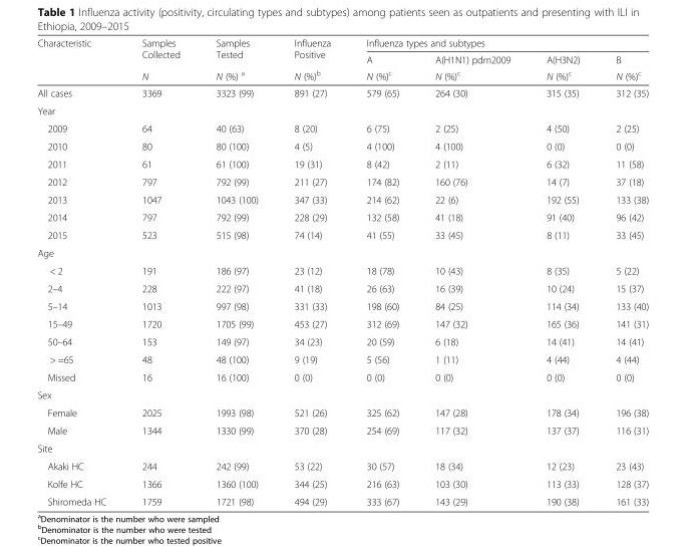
<table><thead><tr><td rowspan="3">Characteristic</td><td rowspan="3">Samples Collected N</td><td rowspan="3">Samples Tested N (%) <sup>a</sup></td><td rowspan="3">Influenza Positive N (%)<sup>b</sup></td><td colspan="4">Influenza types and subtypes</td></tr><tr><td rowspan="2">A N (%)<sup>c</sup></td><td rowspan="2">A(H1N1) pdm2009 N (%)<sup>c</sup></td><td rowspan="2">A(H3N2) N (%)<sup>c</sup></td><td rowspan="2">B N (%)<sup>c</sup></td></tr><tr></tr></thead><tbody><tr><td>All cases</td><td>3369</td><td>3323 (99)</td><td>891 (27)</td><td>579 (65)</td><td>264 (30)</td><td>315 (35)</td><td>312 (35)</td></tr><tr><td colspan="8">Year</td></tr><tr><td>2009</td><td>64</td><td>40 (63)</td><td>8 (20)</td><td>6 (75)</td><td>2 (25)</td><td>4 (50)</td><td>2 (25)</td></tr><tr><td>2010</td><td>80</td><td>80 (100)</td><td>4 (5)</td><td>4 (100)</td><td>4 (100)</td><td>0 (0)</td><td>0 (0)</td></tr><tr><td>2011</td><td>61</td><td>61 (100)</td><td>19 (31)</td><td>8 (42)</td><td>2 (11)</td><td>6 (32)</td><td>11 (58)</td></tr><tr><td>2012</td><td>797</td><td>792 (99)</td><td>211 (27)</td><td>174 (82)</td><td>160 (76)</td><td>14 (7)</td><td>37 (18)</td></tr><tr><td>2013</td><td>1047</td><td>1043 (100)</td><td>347 (33)</td><td>214 (62)</td><td>22 (6)</td><td>192 (55)</td><td>133 (38)</td></tr><tr><td>2014</td><td>797</td><td>792 (99)</td><td>228 (29)</td><td>132 (58)</td><td>41 (18)</td><td>91 (40)</td><td>96 (42)</td></tr><tr><td>2015</td><td>523</td><td>515 (98)</td><td>74 (14)</td><td>41 (55)</td><td>33 (45)</td><td>8 (11)</td><td>33 (45)</td></tr><tr><td colspan="8">Age</td></tr><tr><td>&lt; 2</td><td>191</td><td>186 (97)</td><td>23 (12)</td><td>18 (78)</td><td>10 (43)</td><td>8 (35)</td><td>5 (22)</td></tr><tr><td>2–4</td><td>228</td><td>222 (97)</td><td>41 (18)</td><td>26 (63)</td><td>16 (39)</td><td>10 (24)</td><td>15 (37)</td></tr><tr><td>5–14</td><td>1013</td><td>997 (98)</td><td>331 (33)</td><td>198 (60)</td><td>84 (25)</td><td>114 (34)</td><td>133 (40)</td></tr><tr><td>15–49</td><td>1720</td><td>1705 (99)</td><td>453 (27)</td><td>312 (69)</td><td>147 (32)</td><td>165 (36)</td><td>141 (31)</td></tr><tr><td>50–64</td><td>153</td><td>149 (97)</td><td>34 (23)</td><td>20 (59)</td><td>6 (18)</td><td>14 (41)</td><td>14 (41)</td></tr><tr><td>&gt; =65</td><td>48</td><td>48 (100)</td><td>9 (19)</td><td>5 (56)</td><td>1 (11)</td><td>4 (44)</td><td>4 (44)</td></tr><tr><td>Missed</td><td>16</td><td>16 (100)</td><td>0 (0)</td><td>0 (0)</td><td>0 (0)</td><td>0 (0)</td><td>0 (0)</td></tr><tr><td colspan="8">Sex</td></tr><tr><td>Female</td><td>2025</td><td>1993 (98)</td><td>521 (26)</td><td>325 (62)</td><td>147 (28)</td><td>178 (34)</td><td>196 (38)</td></tr><tr><td>Male</td><td>1344</td><td>1330 (99)</td><td>370 (28)</td><td>254 (69)</td><td>117 (32)</td><td>137 (37)</td><td>116 (31)</td></tr><tr><td colspan="8">Site</td></tr><tr><td>Akaki HC</td><td>244</td><td>242 (99)</td><td>53 (22)</td><td>30 (57)</td><td>18 (34)</td><td>12 (23)</td><td>23 (43)</td></tr><tr><td>Kolfe HC</td><td>1366</td><td>1360 (100)</td><td>344 (25)</td><td>216 (63)</td><td>103 (30)</td><td>113 (33)</td><td>128 (37)</td></tr><tr><td>Shiromeda HC</td><td>1759</td><td>1721 (98)</td><td>494 (29)</td><td>333 (67)</td><td>143 (29)</td><td>190 (38)</td><td>161 (33)</td></tr></tbody></table>